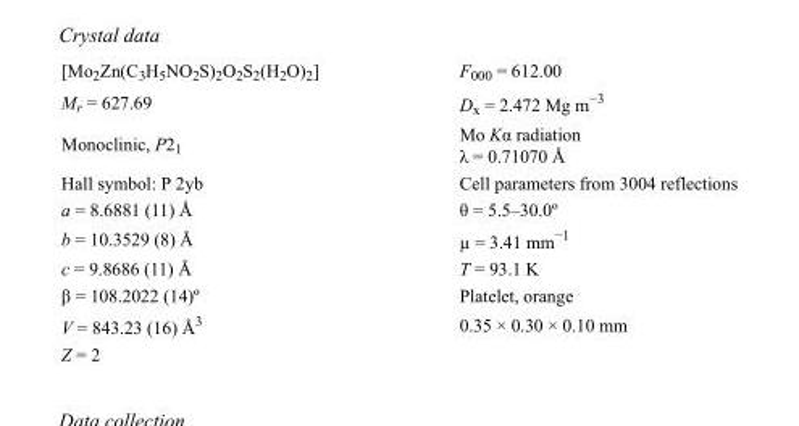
<table><tbody><tr><td>[Mo<sub>2</sub>Zn(C<sub>3</sub>H<sub>5</sub>NO<sub>2</sub>S)<sub>2</sub>O<sub>2</sub>S<sub>2</sub>(H<sub>2</sub>O)<sub>2</sub>]</td><td>F<sub>000</sub> = 612.00</td></tr><tr><td>M<sub>r</sub> = 627.69</td><td>D<sub>x</sub> = 2.472 Mg m<sup>−3</sup></td></tr><tr><td>Monoclinic, P2<sub>1</sub></td><td>Mo Kα radiation λ = 0.71070 Å</td></tr><tr><td>Hall symbol: P 2yb</td><td>Cell parameters from 3004 reflections</td></tr><tr><td>a = 8.6881 (11) Å</td><td>θ = 5.5–30.0º</td></tr><tr><td>b = 10.3529 (8) Å</td><td>µ = 3.41 mm<sup>−1</sup></td></tr><tr><td>c = 9.8686 (11) Å</td><td>T = 93.1 K</td></tr><tr><td>β = 108.2022 (14)º</td><td>Platelet, orange</td></tr><tr><td>V = 843.23 (16) Å<sup>3</sup></td><td>0.35 × 0.30 × 0.10 mm</td></tr><tr><td>Z = 2</td><td></td></tr></tbody></table>